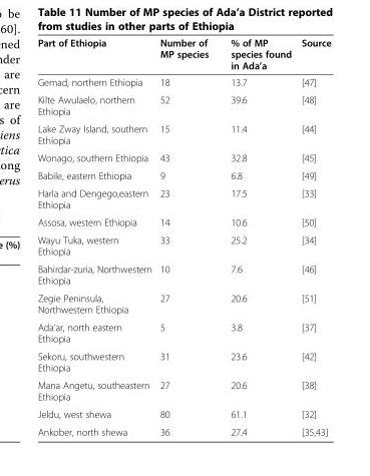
<table><thead><tr><td>Part of Ethiopia</td><td>Number of MP species</td><td>% of MP species found in Ada’a</td><td>Source</td></tr></thead><tbody><tr><td>Gemad, northern Ethiopia</td><td>18</td><td>13.7</td><td>[47]</td></tr><tr><td>Kilte Awulaelo, northern Ethiopia</td><td>52</td><td>39.6</td><td>[48]</td></tr><tr><td>Lake Zway Island, southern Ethiopia</td><td>15</td><td>11.4</td><td>[44]</td></tr><tr><td>Wonago, southern Ethiopia</td><td>43</td><td>32.8</td><td>[45]</td></tr><tr><td>Babile, eastern Ethiopia</td><td>9</td><td>6.8</td><td>[49]</td></tr><tr><td>Harla and Dengego,eastern Ethiopia</td><td>23</td><td>17.5</td><td>[33]</td></tr><tr><td>Assosa, western Ethiopia</td><td>14</td><td>10.6</td><td>[50]</td></tr><tr><td>Wayu Tuka, western Ethiopia</td><td>33</td><td>25.2</td><td>[34]</td></tr><tr><td>Bahirdar-zuria, Northwestern Ethiopia</td><td>10</td><td>7.6</td><td>[46]</td></tr><tr><td>Zegie Peninsula, Northwestern Ethiopia</td><td>27</td><td>20.6</td><td>[51]</td></tr><tr><td>Ada’ar, north eastern Ethiopia</td><td>5</td><td>3.8</td><td>[37]</td></tr><tr><td>Sekoru, southwestern Ethiopia</td><td>31</td><td>23.6</td><td>[42]</td></tr><tr><td>Mana Angetu, southeastern Ethiopia</td><td>27</td><td>20.6</td><td>[38]</td></tr><tr><td>Jeldu, west shewa</td><td>80</td><td>61.1</td><td>[32]</td></tr><tr><td>Ankober, north shewa</td><td>36</td><td>27.4</td><td>[35,43]</td></tr></tbody></table>